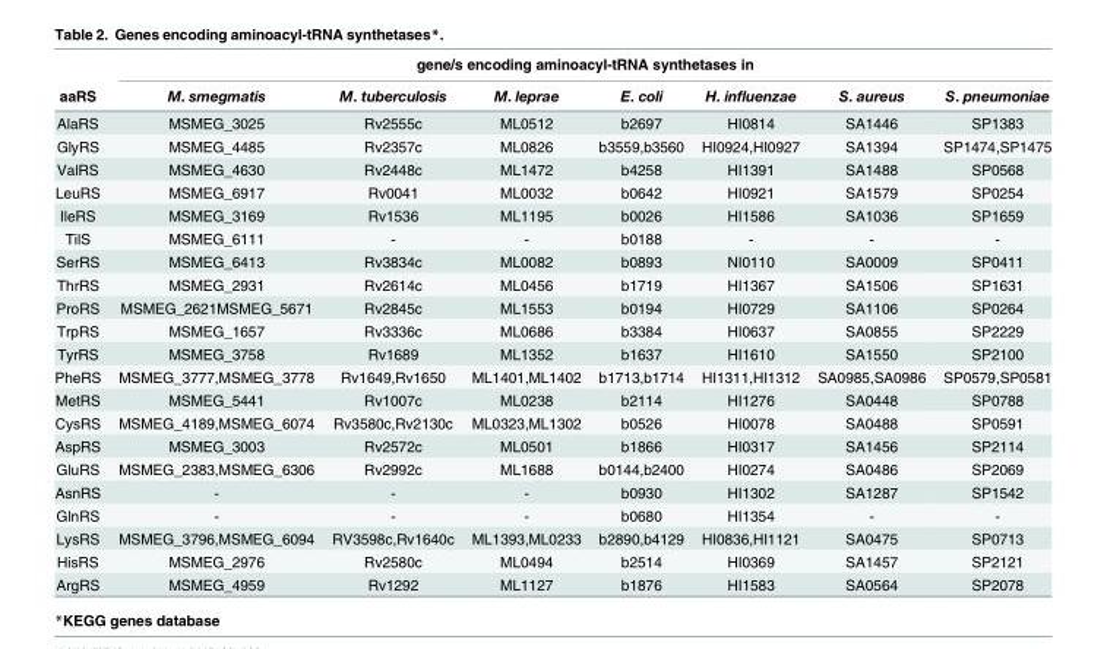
<table><thead><tr><td rowspan="2">aaRS</td><td colspan="7">gene/s encoding aminoacyl-tRNA synthetases in</td></tr><tr><td>M. smegmatis</td><td>M. tuberculosis</td><td>M. leprae</td><td>E. coli</td><td>H. influenzae</td><td>S. aureus</td><td>S. pneumoniae</td></tr></thead><tbody><tr><td>AlaRS</td><td>MSMEG_3025</td><td>Rv2555c</td><td>ML0512</td><td>b2697</td><td>HI0814</td><td>SA1446</td><td>SP1383</td></tr><tr><td>GlyRS</td><td>MSMEG_4485</td><td>Rv2357c</td><td>ML0826</td><td>b3559,b3560</td><td>HI0924,HI0927</td><td>SA1394</td><td>SP1474,SP1475</td></tr><tr><td>ValRS</td><td>MSMEG_4630</td><td>Rv2448c</td><td>ML1472</td><td>b4258</td><td>HI1391</td><td>SA1488</td><td>SP0568</td></tr><tr><td>LeuRS</td><td>MSMEG_6917</td><td>Rv0041</td><td>ML0032</td><td>b0642</td><td>HI0921</td><td>SA1579</td><td>SP0254</td></tr><tr><td>IleRS</td><td>MSMEG_3169</td><td>Rv1536</td><td>ML1195</td><td>b0026</td><td>HI1586</td><td>SA1036</td><td>SP1659</td></tr><tr><td>TilS</td><td>MSMEG_6111</td><td>-</td><td>-</td><td>b0188</td><td>-</td><td>-</td><td>-</td></tr><tr><td>SerRS</td><td>MSMEG_6413</td><td>Rv3834c</td><td>ML0082</td><td>b0893</td><td>NI0110</td><td>SA0009</td><td>SP0411</td></tr><tr><td>ThrRS</td><td>MSMEG_2931</td><td>Rv2614c</td><td>ML0456</td><td>b1719</td><td>HI1367</td><td>SA1506</td><td>SP1631</td></tr><tr><td>ProRS</td><td>MSMEG_2621MSMEG_5671</td><td>Rv2845c</td><td>ML1553</td><td>b0194</td><td>HI0729</td><td>SA1106</td><td>SP0264</td></tr><tr><td>TrpRS</td><td>MSMEG_1657</td><td>Rv3336c</td><td>ML0686</td><td>b3384</td><td>HI0637</td><td>SA0855</td><td>SP2229</td></tr><tr><td>TyrRS</td><td>MSMEG_3758</td><td>Rv1689</td><td>ML1352</td><td>b1637</td><td>HI1610</td><td>SA1550</td><td>SP2100</td></tr><tr><td>PheRS</td><td>MSMEG_3777,MSMEG_3778</td><td>Rv1649,Rv1650</td><td>ML1401,ML1402</td><td>b1713,b1714</td><td>HI1311,HI1312</td><td>SA0985,SA0986</td><td>SP0579,SP0581</td></tr><tr><td>MetRS</td><td>MSMEG_5441</td><td>Rv1007c</td><td>ML0238</td><td>b2114</td><td>HI1276</td><td>SA0448</td><td>SP0788</td></tr><tr><td>CysRS</td><td>MSMEG_4189,MSMEG_6074</td><td>Rv3580c,Rv2130c</td><td>ML0323,ML1302</td><td>b0526</td><td>HI0078</td><td>SA0488</td><td>SP0591</td></tr><tr><td>AspRS</td><td>MSMEG_3003</td><td>Rv2572c</td><td>ML0501</td><td>b1866</td><td>HI0317</td><td>SA1456</td><td>SP2114</td></tr><tr><td>GluRS</td><td>MSMEG_2383,MSMEG_6306</td><td>Rv2992c</td><td>ML1688</td><td>b0144,b2400</td><td>HI0274</td><td>SA0486</td><td>SP2069</td></tr><tr><td>AsnRS</td><td>-</td><td>-</td><td>-</td><td>b0930</td><td>HI1302</td><td>SA1287</td><td>SP1542</td></tr><tr><td>GlnRS</td><td>-</td><td>-</td><td>-</td><td>b0680</td><td>HI1354</td><td>-</td><td>-</td></tr><tr><td>LysRS</td><td>MSMEG_3796,MSMEG_6094</td><td>RV3598c,Rv1640c</td><td>ML1393,ML0233</td><td>b2890,b4129</td><td>HI0836,HI1121</td><td>SA0475</td><td>SP0713</td></tr><tr><td>HisRS</td><td>MSMEG_2976</td><td>Rv2580c</td><td>ML0494</td><td>b2514</td><td>HI0369</td><td>SA1457</td><td>SP2121</td></tr><tr><td>ArgRS</td><td>MSMEG_4959</td><td>Rv1292</td><td>ML1127</td><td>b1876</td><td>HI1583</td><td>SA0564</td><td>SP2078</td></tr></tbody></table>